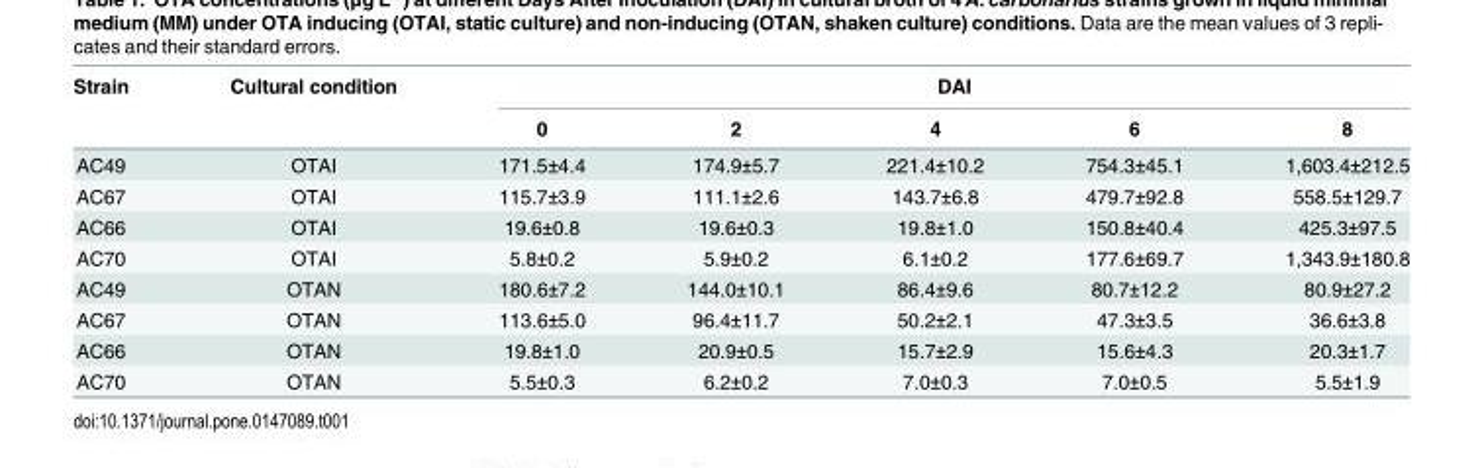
<table><thead><tr><td rowspan="2">Strain</td><td rowspan="2">Cultural condition</td><td colspan="5">DAI</td></tr><tr><td>0</td><td>2</td><td>4</td><td>6</td><td>8</td></tr></thead><tbody><tr><td>AC49</td><td>OTAI</td><td>171.5±4.4</td><td>174.9±5.7</td><td>221.4±10.2</td><td>754.3±45.1</td><td>1,603.4±212.5</td></tr><tr><td>AC67</td><td>OTAI</td><td>115.7±3.9</td><td>111.1±2.6</td><td>143.7±6.8</td><td>479.7±92.8</td><td>558.5±129.7</td></tr><tr><td>AC66</td><td>OTAI</td><td>19.6±0.8</td><td>19.6±0.3</td><td>19.8±1.0</td><td>150.8±40.4</td><td>425.3±97.5</td></tr><tr><td>AC70</td><td>OTAI</td><td>5.8±0.2</td><td>5.9±0.2</td><td>6.1±0.2</td><td>177.6±69.7</td><td>1,343.9±180.8</td></tr><tr><td>AC49</td><td>OTAN</td><td>180.6±7.2</td><td>144.0±10.1</td><td>86.4±9.6</td><td>80.7±12.2</td><td>80.9±27.2</td></tr><tr><td>AC67</td><td>OTAN</td><td>113.6±5.0</td><td>96.4±11.7</td><td>50.2±2.1</td><td>47.3±3.5</td><td>36.6±3.8</td></tr><tr><td>AC66</td><td>OTAN</td><td>19.8±1.0</td><td>20.9±0.5</td><td>15.7±2.9</td><td>15.6±4.3</td><td>20.3±1.7</td></tr><tr><td>AC70</td><td>OTAN</td><td>5.5±0.3</td><td>6.2±0.2</td><td>7.0±0.3</td><td>7.0±0.5</td><td>5.5±1.9</td></tr></tbody></table>